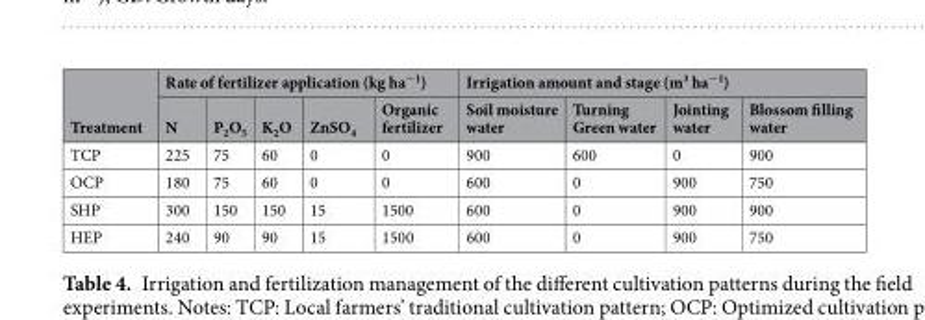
<table><thead><tr><td rowspan="2">Treatment</td><td colspan="5">Rate of fertilizer application (kg ha<sup>−1</sup>)</td><td colspan="4">Irrigation amount and stage (m<sup>3</sup> ha<sup>−1</sup>)</td></tr><tr><td>N</td><td>P<sub>2</sub>O<sub>5</sub></td><td>K<sub>2</sub>O</td><td>ZnSO<sub>4</sub></td><td>Organic fertilizer</td><td>Soil moisture water</td><td>Turning Green water</td><td>Jointing water</td><td>Blossom filling water</td></tr></thead><tbody><tr><td>TCP</td><td>225</td><td>75</td><td>60</td><td>0</td><td>0</td><td>900</td><td>600</td><td>0</td><td>900</td></tr><tr><td>OCP</td><td>180</td><td>75</td><td>60</td><td>0</td><td>0</td><td>600</td><td>0</td><td>900</td><td>750</td></tr><tr><td>SHP</td><td>300</td><td>150</td><td>150</td><td>15</td><td>1500</td><td>600</td><td>0</td><td>900</td><td>900</td></tr><tr><td>HEP</td><td>240</td><td>90</td><td>90</td><td>15</td><td>1500</td><td>600</td><td>0</td><td>900</td><td>750</td></tr></tbody></table>